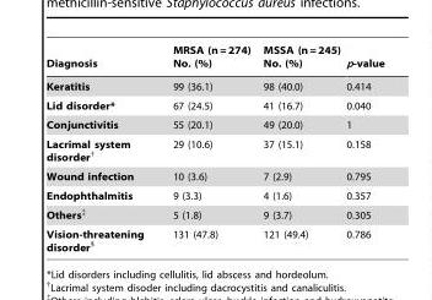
<table><thead><tr><td>Diagnosis</td><td>MRSA (n = 274) No. (%)</td><td>MSSA (n = 245) No. (%)</td><td>p-value</td></tr></thead><tbody><tr><td>Keratitis</td><td>99 (36.1)</td><td>98 (40.0)</td><td>0.414</td></tr><tr><td>Lid disorder*</td><td>67 (24.5)</td><td>41 (16.7)</td><td>0.040</td></tr><tr><td>Conjunctivitis</td><td>55 (20.1)</td><td>49 (20.0)</td><td>1</td></tr><tr><td>Lacrimal system disorder†</td><td>29 (10.6)</td><td>37 (15.1)</td><td>0.158</td></tr><tr><td>Wound infection</td><td>10 (3.6)</td><td>7 (2.9)</td><td>0.795</td></tr><tr><td>Endophthalmitis</td><td>9 (3.3)</td><td>4 (1.6)</td><td>0.357</td></tr><tr><td>Others‡</td><td>5 (1.8)</td><td>9 (3.7)</td><td>0.305</td></tr><tr><td>Vision-threatening disorder§</td><td>131 (47.8)</td><td>121 (49.4)</td><td>0.786</td></tr></tbody></table>